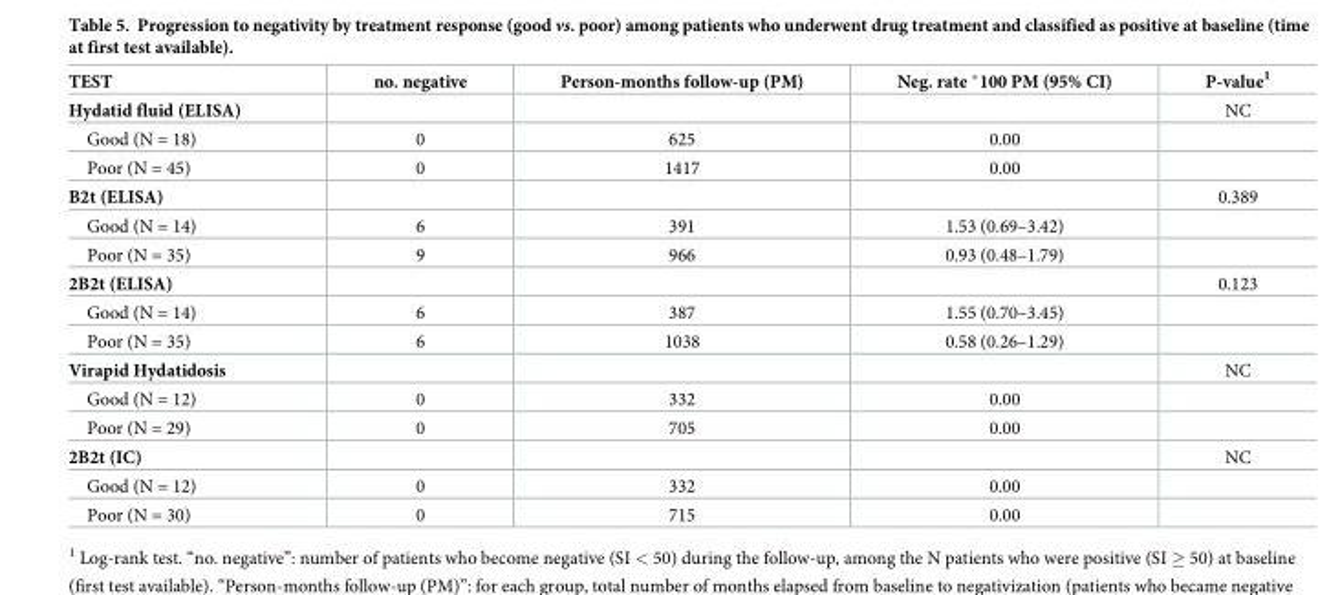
<table><thead><tr><td>TEST</td><td>no. negative</td><td>Person-months follow-up (PM)</td><td>Neg. rate *100 PM (95% CI)</td><td>P-value<sup>1</sup></td></tr></thead><tbody><tr><td>Hydatid fluid (ELISA)</td><td></td><td></td><td></td><td>NC</td></tr><tr><td>Good (N = 18)</td><td>0</td><td>625</td><td>0.00</td><td></td></tr><tr><td>Poor (N = 45)</td><td>0</td><td>1417</td><td>0.00</td><td></td></tr><tr><td>B2t (ELISA)</td><td></td><td></td><td></td><td>0.389</td></tr><tr><td>Good (N = 14)</td><td>6</td><td>391</td><td>1.53 (0.69–3.42)</td><td></td></tr><tr><td>Poor (N = 35)</td><td>9</td><td>966</td><td>0.93 (0.48–1.79)</td><td></td></tr><tr><td>2B2t (ELISA)</td><td></td><td></td><td></td><td>0.123</td></tr><tr><td>Good (N = 14)</td><td>6</td><td>387</td><td>1.55 (0.70–3.45)</td><td></td></tr><tr><td>Poor (N = 35)</td><td>6</td><td>1038</td><td>0.58 (0.26–1.29)</td><td></td></tr><tr><td>Virapid Hydatidosis</td><td></td><td></td><td></td><td>NC</td></tr><tr><td>Good (N = 12)</td><td>0</td><td>332</td><td>0.00</td><td></td></tr><tr><td>Poor (N = 29)</td><td>0</td><td>705</td><td>0.00</td><td></td></tr><tr><td>2B2t (IC)</td><td></td><td></td><td></td><td>NC</td></tr><tr><td>Good (N = 12)</td><td>0</td><td>332</td><td>0.00</td><td></td></tr><tr><td>Poor (N = 30)</td><td>0</td><td>715</td><td>0.00</td><td></td></tr></tbody></table>